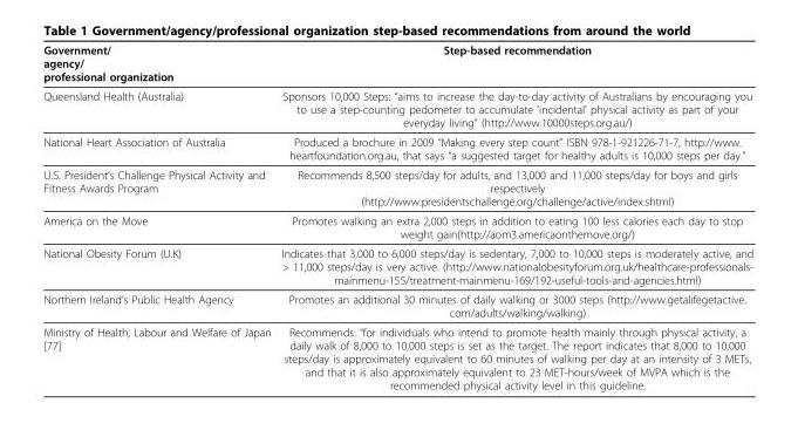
<table><thead><tr><td>Government/ agency/ professional organization</td><td>Step-based recommendation</td></tr></thead><tbody><tr><td>Queensland Health (Australia)</td><td>Sponsors 10,000 Steps: “aims to increase the day-to-day activity of Australians by encouraging you to use a step-counting pedometer to accumulate ‘incidental’ physical activity as part of your everyday living” (http://www.10000steps.org.au/)</td></tr><tr><td>National Heart Association of Australia</td><td>Produced a brochure in 2009 “Making every step count” ISBN 978-1-921226-71-7, http://www. heartfoundation.org.au, that says “a suggested target for healthy adults is 10,000 steps per day.”</td></tr><tr><td>U.S. President’s Challenge Physical Activity and Fitness Awards Program</td><td>Recommends 8,500 steps/day for adults, and 13,000 and 11,000 steps/day for boys and girls respectively (http://www.presidentschallenge.org/challenge/active/index.shtml)</td></tr><tr><td>America on the Move</td><td>Promotes walking an extra 2,000 steps in addition to eating 100 less calories each day to stop weight gain(http://aom3.americaonthemove.org/)</td></tr><tr><td>National Obesity Forum (U.K)</td><td>Indicates that 3,000 to 6,000 steps/day is sedentary, 7,000 to 10,000 steps is moderately active, and &gt; 11,000 steps/day is very active. (http://www.nationalobesityforum.org.uk/healthcare-professionals- mainmenu-155/treatment-mainmenu-169/192-useful-tools-and-agencies.html)</td></tr><tr><td>Northern Ireland’s Public Health Agency</td><td>Promotes an additional 30 minutes of daily walking or 3000 steps (http://www.getalifegetactive. com/adults/walking/walking)</td></tr><tr><td>Ministry of Health, Labour and Welfare of Japan [77]</td><td>Recommends: “for individuals who intend to promote health mainly through physical activity, a daily walk of 8,000 to 10,000 steps is set as the target. The report indicates that 8,000 to 10,000 steps/day is approximately equivalent to 60 minutes of walking per day at an intensity of 3 METs, and that it is also approximately equivalent to 23 MET-hours/week of MVPA which is the recommended physical activity level in this guideline.</td></tr></tbody></table>